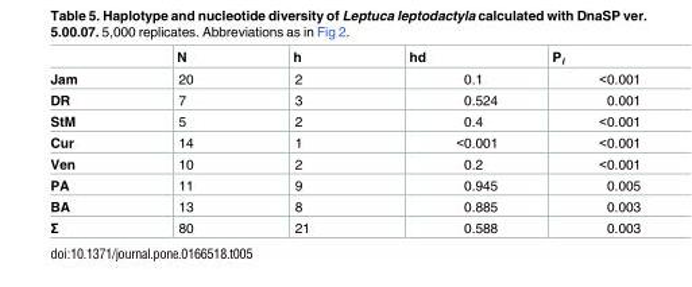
<table><thead><tr><td></td><td>N</td><td>h</td><td>hd</td><td>P<sub>i</sub></td></tr></thead><tbody><tr><td>Jam</td><td>20</td><td>2</td><td>0.1</td><td>&lt;0.001</td></tr><tr><td>DR</td><td>7</td><td>3</td><td>0.524</td><td>0.001</td></tr><tr><td>StM</td><td>5</td><td>2</td><td>0.4</td><td>&lt;0.001</td></tr><tr><td>Cur</td><td>14</td><td>1</td><td>&lt;0.001</td><td>&lt;0.001</td></tr><tr><td>Ven</td><td>10</td><td>2</td><td>0.2</td><td>&lt;0.001</td></tr><tr><td>PA</td><td>11</td><td>9</td><td>0.945</td><td>0.005</td></tr><tr><td>BA</td><td>13</td><td>8</td><td>0.885</td><td>0.003</td></tr><tr><td>Σ</td><td>80</td><td>21</td><td>0.588</td><td>0.003</td></tr></tbody></table>